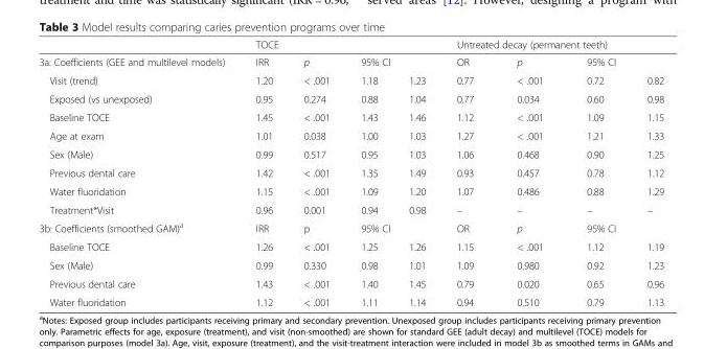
<table><thead><tr><td rowspan="3">3a: Coefficients (GEE and multilevel models) Visit (trend)</td><td colspan="4">TOCE</td><td colspan="4">Untreated decay (permanent teeth)</td></tr><tr><td rowspan="2">IRR 1.20</td><td rowspan="2">p &lt; .001</td><td colspan="2">95% CI</td><td rowspan="2">OR 0.77</td><td rowspan="2">p &lt; .001</td><td colspan="2">95% CI</td></tr><tr><td>1.18</td><td>1.23</td><td>0.72</td><td>0.82</td></tr></thead><tbody><tr><td>Exposed (vs unexposed)</td><td>0.95</td><td>0.274</td><td>0.88</td><td>1.04</td><td>0.77</td><td>0.034</td><td>0.60</td><td>0.98</td></tr><tr><td>Baseline TOCE</td><td>1.45</td><td>&lt; .001</td><td>1.43</td><td>1.46</td><td>1.12</td><td>&lt; .001</td><td>1.09</td><td>1.15</td></tr><tr><td>Age at exam</td><td>1.01</td><td>0.038</td><td>1.00</td><td>1.03</td><td>1.27</td><td>&lt; .001</td><td>1.21</td><td>1.33</td></tr><tr><td>Sex (Male)</td><td>0.99</td><td>0.517</td><td>0.95</td><td>1.03</td><td>1.06</td><td>0.468</td><td>0.90</td><td>1.25</td></tr><tr><td>Previous dental care</td><td>1.42</td><td>&lt; .001</td><td>1.35</td><td>1.49</td><td>0.93</td><td>0.457</td><td>0.78</td><td>1.12</td></tr><tr><td>Water fluoridation</td><td>1.15</td><td>&lt; .001</td><td>1.09</td><td>1.20</td><td>1.07</td><td>0.486</td><td>0.88</td><td>1.29</td></tr><tr><td>Treatment*Visit</td><td>0.96</td><td>0.001</td><td>0.94</td><td>0.98</td><td>–</td><td>–</td><td>–</td><td>–</td></tr><tr><td>3b: Coefficients (smoothed GAM)<sup>a</sup></td><td>IRR</td><td>p</td><td colspan="2">95% CI</td><td>OR</td><td>p</td><td colspan="2">95% CI</td></tr><tr><td>Baseline TOCE</td><td>1.26</td><td>&lt; .001</td><td>1.25</td><td>1.26</td><td>1.15</td><td>&lt; .001</td><td>1.12</td><td>1.19</td></tr><tr><td>Sex (Male)</td><td>0.99</td><td>0.330</td><td>0.98</td><td>1.01</td><td>1.09</td><td>0.980</td><td>0.92</td><td>1.23</td></tr><tr><td>Previous dental care</td><td>1.43</td><td>&lt; .001</td><td>1.40</td><td>1.45</td><td>0.79</td><td>0.020</td><td>0.65</td><td>0.96</td></tr><tr><td>Water fluoridation</td><td>1.12</td><td>&lt; .001</td><td>1.11</td><td>1.14</td><td>0.94</td><td>0.510</td><td>0.79</td><td>1.13</td></tr></tbody></table>